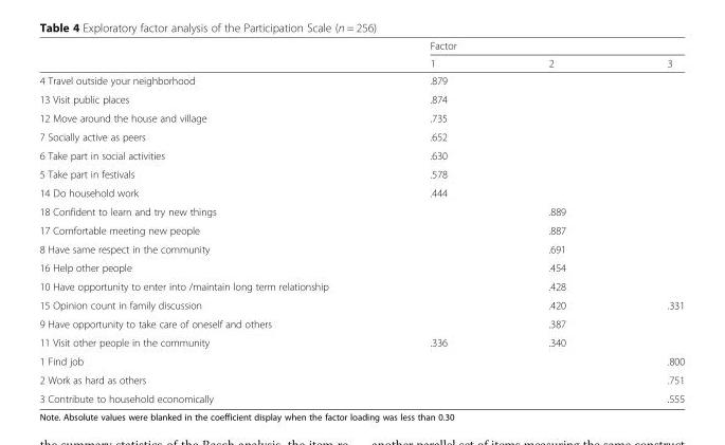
<table><thead><tr><td rowspan="2"></td><td colspan="3">Factor</td></tr><tr><td>1</td><td>2</td><td>3</td></tr></thead><tbody><tr><td>4 Travel outside your neighborhood</td><td>.879</td><td></td><td></td></tr><tr><td>13 Visit public places</td><td>.874</td><td></td><td></td></tr><tr><td>12 Move around the house and village</td><td>.735</td><td></td><td></td></tr><tr><td>7 Socially active as peers</td><td>.652</td><td></td><td></td></tr><tr><td>6 Take part in social activities</td><td>.630</td><td></td><td></td></tr><tr><td>5 Take part in festivals</td><td>.578</td><td></td><td></td></tr><tr><td>14 Do household work</td><td>.444</td><td></td><td></td></tr><tr><td>18 Confident to learn and try new things</td><td></td><td>.889</td><td></td></tr><tr><td>17 Comfortable meeting new people</td><td></td><td>.887</td><td></td></tr><tr><td>8 Have same respect in the community</td><td></td><td>.691</td><td></td></tr><tr><td>16 Help other people</td><td></td><td>.454</td><td></td></tr><tr><td>10 Have opportunity to enter into /maintain long term relationship</td><td></td><td>.428</td><td></td></tr><tr><td>15 Opinion count in family discussion</td><td></td><td>.420</td><td>.331</td></tr><tr><td>9 Have opportunity to take care of oneself and others</td><td></td><td>.387</td><td></td></tr><tr><td>11 Visit other people in the community</td><td>.336</td><td>.340</td><td></td></tr><tr><td>1 Find job</td><td></td><td></td><td>.800</td></tr><tr><td>2 Work as hard as others</td><td></td><td></td><td>.751</td></tr><tr><td>3 Contribute to household economically</td><td></td><td></td><td>.555</td></tr></tbody></table>